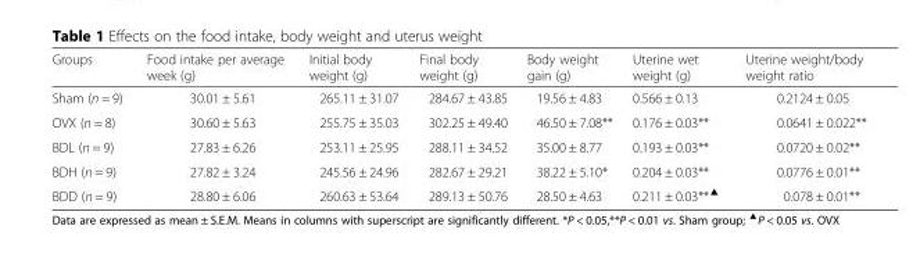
<table><thead><tr><td>Groups</td><td>Food intake per average week (g)</td><td>Initial body weight (g)</td><td>Final body weight (g)</td><td>Body weight gain (g)</td><td>Uterine wet weight (g)</td><td>Uterine weight/body weight ratio</td></tr></thead><tbody><tr><td>Sham (n = 9)</td><td>30.01 ± 5.61</td><td>265.11 ± 31.07</td><td>284.67 ± 43.85</td><td>19.56 ± 4.83</td><td>0.566 ± 0.13</td><td>0.2124 ± 0.05</td></tr><tr><td>OVX (n = 8)</td><td>30.60 ± 5.63</td><td>255.75 ± 35.03</td><td>302.25 ± 49.40</td><td>46.50 ± 7.08**</td><td>0.176 ± 0.03**</td><td>0.0641 ± 0.022**</td></tr><tr><td>BDL (n = 9)</td><td>27.83 ± 6.26</td><td>253.11 ± 25.95</td><td>288.11 ± 34.52</td><td>35.00 ± 8.77</td><td>0.193 ± 0.03**</td><td>0.0720 ± 0.02**</td></tr><tr><td>BDH (n = 9)</td><td>27.82 ± 3.24</td><td>245.56 ± 24.96</td><td>282.67 ± 29.21</td><td>38.22 ± 5.10*</td><td>0.204 ± 0.03**</td><td>0.0776 ± 0.01**</td></tr><tr><td>BDD (n = 9)</td><td>28.80 ± 6.06</td><td>260.63 ± 53.64</td><td>289.13 ± 50.76</td><td>28.50 ± 4.63</td><td>0.211 ± 0.03**<sup>▲</sup></td><td>0.078 ± 0.01**</td></tr></tbody></table>